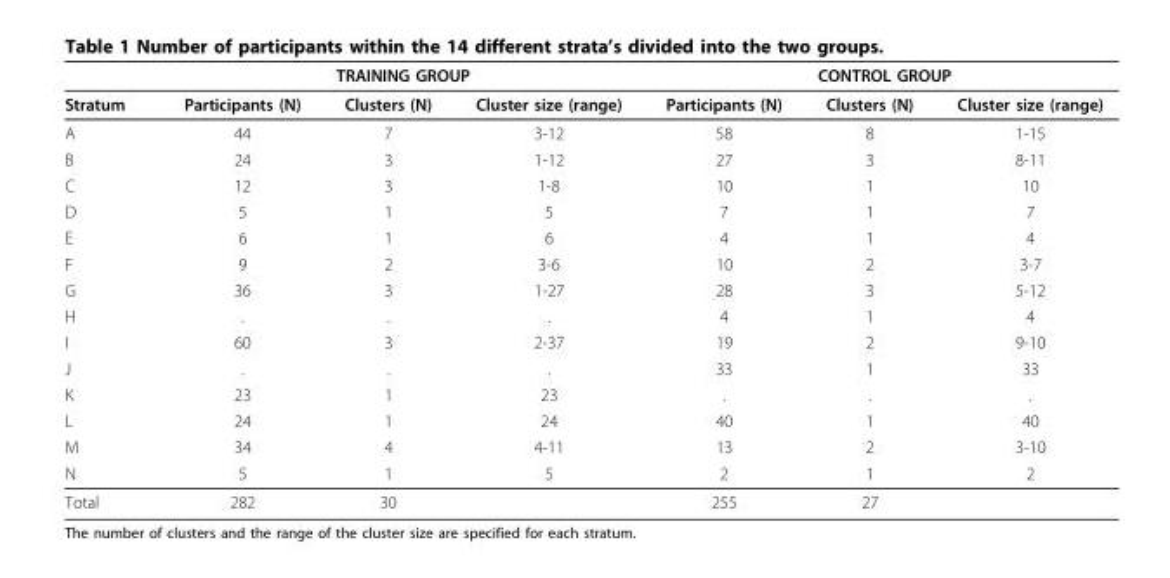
<table><thead><tr><td rowspan="2">Stratum</td><td colspan="3">TRAINING GROUP</td><td colspan="3">CONTROL GROUP</td></tr><tr><td>Participants (N)</td><td>Clusters (N)</td><td>Cluster size (range)</td><td>Participants (N)</td><td>Clusters (N)</td><td>Cluster size (range)</td></tr></thead><tbody><tr><td>A</td><td>44</td><td>7</td><td>3-12</td><td>58</td><td>8</td><td>1-15</td></tr><tr><td>B</td><td>24</td><td>3</td><td>1-12</td><td>27</td><td>3</td><td>8-11</td></tr><tr><td>C</td><td>12</td><td>3</td><td>1-8</td><td>10</td><td>1</td><td>10</td></tr><tr><td>D</td><td>5</td><td>1</td><td>5</td><td>7</td><td>1</td><td>7</td></tr><tr><td>E</td><td>6</td><td>1</td><td>6</td><td>4</td><td>1</td><td>4</td></tr><tr><td>F</td><td>9</td><td>2</td><td>3-6</td><td>10</td><td>2</td><td>3-7</td></tr><tr><td>G</td><td>36</td><td>3</td><td>1-27</td><td>28</td><td>3</td><td>5-12</td></tr><tr><td>H</td><td>.</td><td>.</td><td>.</td><td>4</td><td>1</td><td>4</td></tr><tr><td>I</td><td>60</td><td>3</td><td>2-37</td><td>19</td><td>2</td><td>9-10</td></tr><tr><td>J</td><td>.</td><td>.</td><td>.</td><td>33</td><td>1</td><td>33</td></tr><tr><td>K</td><td>23</td><td>1</td><td>23</td><td>.</td><td>.</td><td>.</td></tr><tr><td>L</td><td>24</td><td>1</td><td>24</td><td>40</td><td>1</td><td>40</td></tr><tr><td>M</td><td>34</td><td>4</td><td>4-11</td><td>13</td><td>2</td><td>3-10</td></tr><tr><td>N</td><td>5</td><td>1</td><td>5</td><td>2</td><td>1</td><td>2</td></tr><tr><td>Total</td><td>282</td><td>30</td><td></td><td>255</td><td>27</td><td></td></tr></tbody></table>